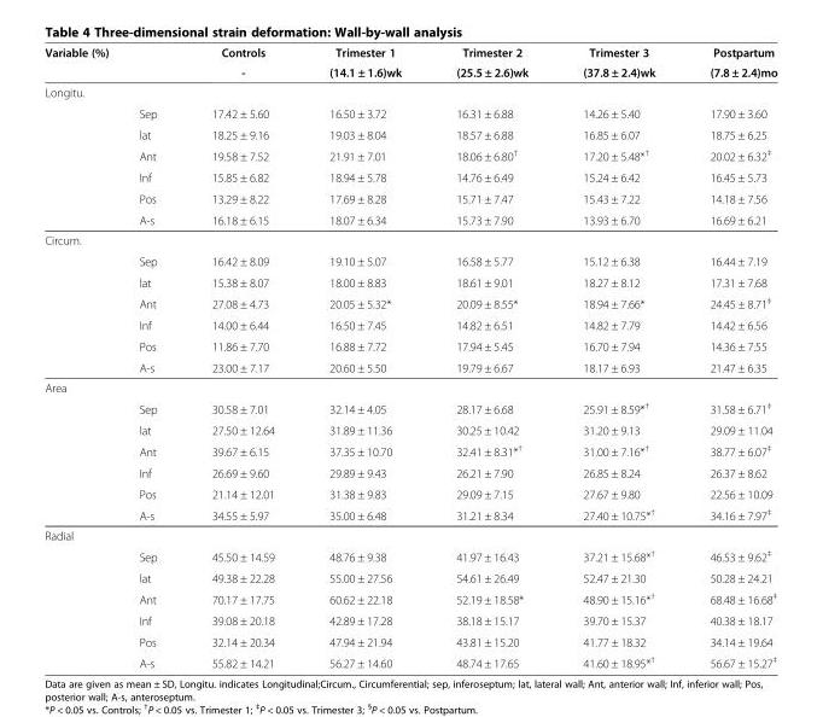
<table><thead><tr><td colspan="2">Variable (%)</td><td rowspan="2">Controls -</td><td rowspan="2">Trimester 1 (14.1 ± 1.6)wk</td><td rowspan="2">Trimester 2 (25.5 ± 2.6)wk</td><td rowspan="2">Trimester 3 (37.8 ± 2.4)wk</td><td rowspan="2">Postpartum (7.8 ± 2.4)mo</td></tr><tr><td></td><td></td></tr></thead><tbody><tr><td colspan="7">Longitu.</td></tr><tr><td></td><td>Sep</td><td>17.42 ± 5.60</td><td>16.50 ± 3.72</td><td>16.31 ± 6.88</td><td>14.26 ± 5.40</td><td>17.90 ± 3.60</td></tr><tr><td></td><td>lat</td><td>18.25 ± 9.16</td><td>19.03 ± 8.04</td><td>18.57 ± 6.88</td><td>16.85 ± 6.07</td><td>18.75 ± 6.25</td></tr><tr><td></td><td>Ant</td><td>19.58 ± 7.52</td><td>21.91 ± 7.01</td><td>18.06 ± 6.80<sup>†</sup></td><td>17.20 ± 5.48*<sup>†</sup></td><td>20.02 ± 6.32<sup>‡</sup></td></tr><tr><td></td><td>Inf</td><td>15.85 ± 6.82</td><td>18.94 ± 5.78</td><td>14.76 ± 6.49</td><td>15.24 ± 6.42</td><td>16.45 ± 5.73</td></tr><tr><td></td><td>Pos</td><td>13.29 ± 8.22</td><td>17.69 ± 8.28</td><td>15.71 ± 7.47</td><td>15.43 ± 7.22</td><td>14.18 ± 7.56</td></tr><tr><td></td><td>A-s</td><td>16.18 ± 6.15</td><td>18.07 ± 6.34</td><td>15.73 ± 7.90</td><td>13.93 ± 6.70</td><td>16.69 ± 6.21</td></tr><tr><td colspan="7">Circum.</td></tr><tr><td></td><td>Sep</td><td>16.42 ± 8.09</td><td>19.10 ± 5.07</td><td>16.58 ± 5.77</td><td>15.12 ± 6.38</td><td>16.44 ± 7.19</td></tr><tr><td></td><td>lat</td><td>15.38 ± 8.07</td><td>18.00 ± 8.83</td><td>18.61 ± 9.01</td><td>18.27 ± 8.12</td><td>17.31 ± 7.68</td></tr><tr><td></td><td>Ant</td><td>27.08 ± 4.73</td><td>20.05 ± 5.32*</td><td>20.09 ± 8.55*</td><td>18.94 ± 7.66*</td><td>24.45 ± 8.71<sup>‡</sup></td></tr><tr><td></td><td>Inf</td><td>14.00 ± 6.44</td><td>16.50 ± 7.45</td><td>14.82 ± 6.51</td><td>14.82 ± 7.79</td><td>14.42 ± 6.56</td></tr><tr><td></td><td>Pos</td><td>11.86 ± 7.70</td><td>16.88 ± 7.72</td><td>17.94 ± 5.45</td><td>16.70 ± 7.94</td><td>14.36 ± 7.55</td></tr><tr><td></td><td>A-s</td><td>23.00 ± 7.17</td><td>20.60 ± 5.50</td><td>19.79 ± 6.67</td><td>18.17 ± 6.93</td><td>21.47 ± 6.35</td></tr><tr><td colspan="7">Area</td></tr><tr><td></td><td>Sep</td><td>30.58 ± 7.01</td><td>32.14 ± 4.05</td><td>28.17 ± 6.68</td><td>25.91 ± 8.59*<sup>†</sup></td><td>31.58 ± 6.71<sup>‡</sup></td></tr><tr><td></td><td>lat</td><td>27.50 ± 12.64</td><td>31.89 ± 11.36</td><td>30.25 ± 10.42</td><td>31.20 ± 9.13</td><td>29.09 ± 11.04</td></tr><tr><td></td><td>Ant</td><td>39.67 ± 6.15</td><td>37.35 ± 10.70</td><td>32.41 ± 8.31*<sup>†</sup></td><td>31.00 ± 7.16*<sup>†</sup></td><td>38.77 ± 6.07<sup>‡</sup></td></tr><tr><td></td><td>Inf</td><td>26.69 ± 9.60</td><td>29.89 ± 9.43</td><td>26.21 ± 7.90</td><td>26.85 ± 8.24</td><td>26.37 ± 8.62</td></tr><tr><td></td><td>Pos</td><td>21.14 ± 12.01</td><td>31.38 ± 9.83</td><td>29.09 ± 7.15</td><td>27.67 ± 9.80</td><td>22.56 ± 10.09</td></tr><tr><td></td><td>A-s</td><td>34.55 ± 5.97</td><td>35.00 ± 6.48</td><td>31.21 ± 8.34</td><td>27.40 ± 10.75*<sup>†</sup></td><td>34.16 ± 7.97<sup>‡</sup></td></tr><tr><td colspan="7">Radial</td></tr><tr><td></td><td>Sep</td><td>45.50 ± 14.59</td><td>48.76 ± 9.38</td><td>41.97 ± 16.43</td><td>37.21 ± 15.68*<sup>†</sup></td><td>46.53 ± 9.62<sup>‡</sup></td></tr><tr><td></td><td>lat</td><td>49.38 ± 22.28</td><td>55.00 ± 27.56</td><td>54.61 ± 26.49</td><td>52.47 ± 21.30</td><td>50.28 ± 24.21</td></tr><tr><td></td><td>Ant</td><td>70.17 ± 17.75</td><td>60.62 ± 22.18</td><td>52.19 ± 18.58*</td><td>48.90 ± 15.16*<sup>†</sup></td><td>68.48 ± 16.68<sup>‡</sup></td></tr><tr><td></td><td>Inf</td><td>39.08 ± 20.18</td><td>42.89 ± 17.28</td><td>38.18 ± 15.17</td><td>39.70 ± 15.37</td><td>40.38 ± 18.17</td></tr><tr><td></td><td>Pos</td><td>32.14 ± 20.34</td><td>47.94 ± 21.94</td><td>43.81 ± 15.20</td><td>41.77 ± 18.32</td><td>34.14 ± 19.64</td></tr><tr><td></td><td>A-s</td><td>55.82 ± 14.21</td><td>56.27 ± 14.60</td><td>48.74 ± 17.65</td><td>41.60 ± 18.95*<sup>†</sup></td><td>56.67 ± 15.27<sup>‡</sup></td></tr></tbody></table>